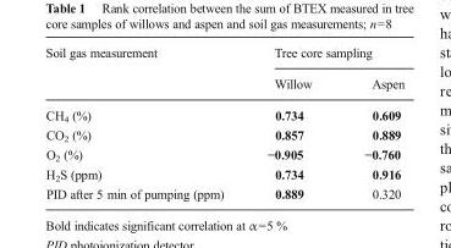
<table><thead><tr><td rowspan="2">Soil gas measurement</td><td colspan="2">Tree core sampling</td></tr><tr><td>Willow</td><td>Aspen</td></tr></thead><tbody><tr><td>CH<sub>4</sub> (%)</td><td>0.734</td><td>0.609</td></tr><tr><td>CO<sub>2</sub> (%)</td><td>0.857</td><td>0.889</td></tr><tr><td>O<sub>2</sub> (%)</td><td>−0.905</td><td>−0.760</td></tr><tr><td>H<sub>2</sub>S (ppm)</td><td>0.734</td><td>0.916</td></tr><tr><td>PID after 5 min of pumping (ppm)</td><td>0.889</td><td>0.320</td></tr></tbody></table>